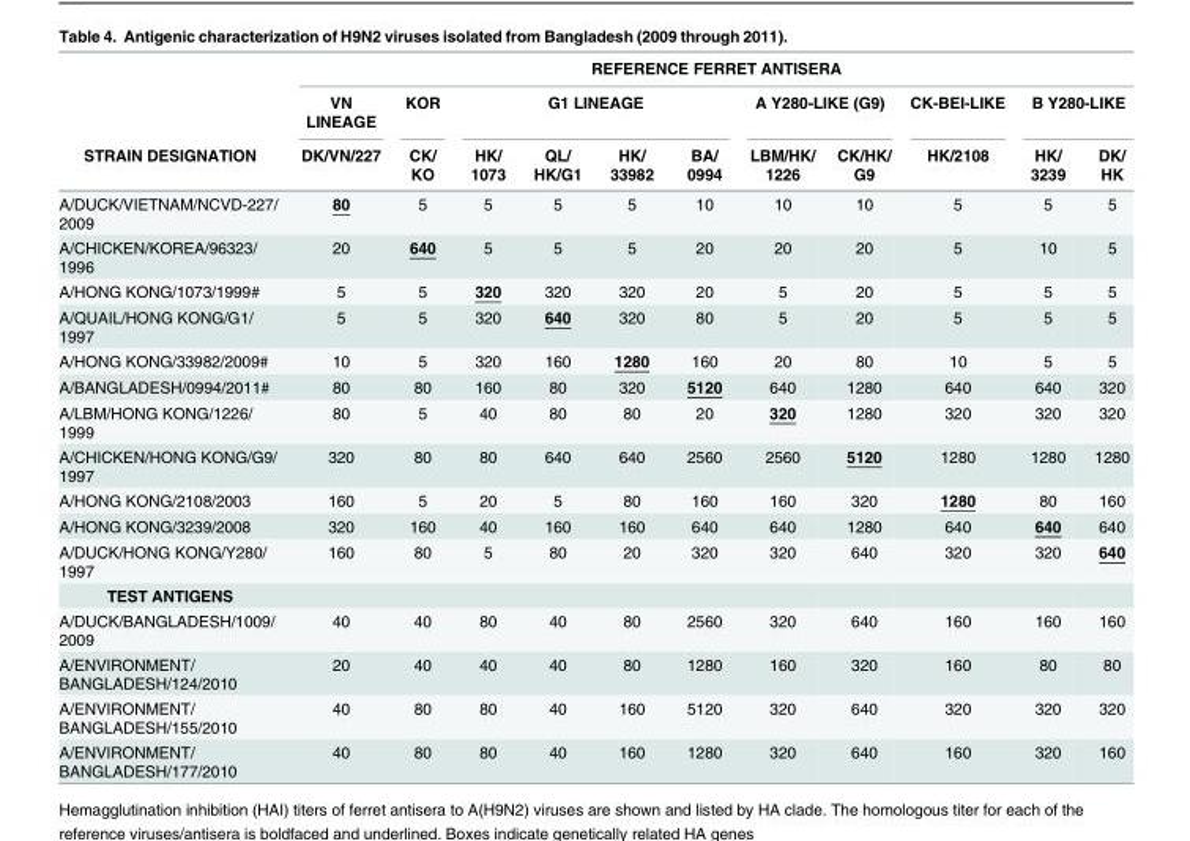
<table><thead><tr><td rowspan="3">STRAIN DESIGNATION</td><td colspan="11">REFERENCE FERRET ANTISERA</td></tr><tr><td rowspan="2">VN LINEAGE DK/VN/227</td><td rowspan="2">KOR CK/ KO</td><td colspan="4">G1 LINEAGE</td><td colspan="2">A Y280-LIKE (G9)</td><td rowspan="2">CK-BEI-LIKE HK/2108</td><td colspan="2">B Y280-LIKE</td></tr><tr><td>HK/ 1073</td><td>QL/ HK/G1</td><td>HK/ 33982</td><td>BA/ 0994</td><td>LBM/HK/ 1226</td><td>CK/HK/ G9</td><td>HK/ 3239</td><td>DK/ HK</td></tr></thead><tbody><tr><td>A/DUCK/VIETNAM/NCVD-227/ 2009</td><td>80</td><td>5</td><td>5</td><td>5</td><td>5</td><td>10</td><td>10</td><td>10</td><td>5</td><td>5</td><td>5</td></tr><tr><td>A/CHICKEN/KOREA/96323/ 1996</td><td>20</td><td>640</td><td>5</td><td>5</td><td>5</td><td>20</td><td>20</td><td>20</td><td>5</td><td>10</td><td>5</td></tr><tr><td>A/HONG KONG/1073/1999#</td><td>5</td><td>5</td><td>320</td><td>320</td><td>320</td><td>20</td><td>5</td><td>20</td><td>5</td><td>5</td><td>5</td></tr><tr><td>A/QUAIL/HONG KONG/G1/ 1997</td><td>5</td><td>5</td><td>320</td><td>640</td><td>320</td><td>80</td><td>5</td><td>20</td><td>5</td><td>5</td><td>5</td></tr><tr><td>A/HONG KONG/33982/2009#</td><td>10</td><td>5</td><td>320</td><td>160</td><td>1280</td><td>160</td><td>20</td><td>80</td><td>10</td><td>5</td><td>5</td></tr><tr><td>A/BANGLADESH/0994/2011#</td><td>80</td><td>80</td><td>160</td><td>80</td><td>320</td><td>5120</td><td>640</td><td>1280</td><td>640</td><td>640</td><td>320</td></tr><tr><td>A/LBM/HONG KONG/1226/ 1999</td><td>80</td><td>5</td><td>40</td><td>80</td><td>80</td><td>20</td><td>320</td><td>1280</td><td>320</td><td>320</td><td>320</td></tr><tr><td>A/CHICKEN/HONG KONG/G9/ 1997</td><td>320</td><td>80</td><td>80</td><td>640</td><td>640</td><td>2560</td><td>2560</td><td>5120</td><td>1280</td><td>1280</td><td>1280</td></tr><tr><td>A/HONG KONG/2108/2003</td><td>160</td><td>5</td><td>20</td><td>5</td><td>80</td><td>160</td><td>160</td><td>320</td><td>1280</td><td>80</td><td>160</td></tr><tr><td>A/HONG KONG/3239/2008</td><td>320</td><td>160</td><td>40</td><td>160</td><td>160</td><td>640</td><td>640</td><td>1280</td><td>640</td><td>640</td><td>640</td></tr><tr><td>A/DUCK/HONG KONG/Y280/ 1997</td><td>160</td><td>80</td><td>5</td><td>80</td><td>20</td><td>320</td><td>320</td><td>640</td><td>320</td><td>320</td><td>640</td></tr><tr><td colspan="12">TEST ANTIGENS</td></tr><tr><td>A/DUCK/BANGLADESH/1009/ 2009</td><td>40</td><td>40</td><td>80</td><td>40</td><td>80</td><td>2560</td><td>320</td><td>640</td><td>160</td><td>160</td><td>160</td></tr><tr><td>A/ENVIRONMENT/ BANGLADESH/124/2010</td><td>20</td><td>40</td><td>40</td><td>40</td><td>80</td><td>1280</td><td>160</td><td>320</td><td>160</td><td>80</td><td>80</td></tr><tr><td>A/ENVIRONMENT/ BANGLADESH/155/2010</td><td>40</td><td>80</td><td>80</td><td>40</td><td>160</td><td>5120</td><td>320</td><td>640</td><td>320</td><td>320</td><td>320</td></tr><tr><td>A/ENVIRONMENT/ BANGLADESH/177/2010</td><td>40</td><td>80</td><td>80</td><td>40</td><td>160</td><td>1280</td><td>320</td><td>640</td><td>160</td><td>320</td><td>160</td></tr></tbody></table>